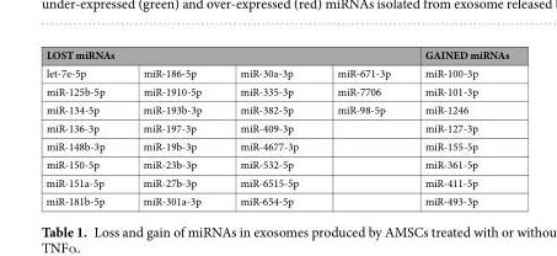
<table><thead><tr><td colspan="4">LOST miRNAs</td><td rowspan="2">GAINED miRNAs miR-100-3p</td></tr><tr><td>let-7e-5p</td><td>miR-186-5p</td><td>miR-30a-3p</td><td>miR-671-3p</td></tr></thead><tbody><tr><td>miR-125b-5p</td><td>miR-1910-5p</td><td>miR-335-3p</td><td>miR-7706</td><td>miR-101-3p</td></tr><tr><td>miR-134-5p</td><td>miR-193b-3p</td><td>miR-382-5p</td><td>miR-98-5p</td><td>miR-1246</td></tr><tr><td>miR-136-3p</td><td>miR-197-3p</td><td>miR-409-3p</td><td></td><td>miR-127-3p</td></tr><tr><td>miR-148b-3p</td><td>miR-19b-3p</td><td>miR-4677-3p</td><td></td><td>miR-155-5p</td></tr><tr><td>miR-150-5p</td><td>miR-23b-3p</td><td>miR-532-5p</td><td></td><td>miR-361-5p</td></tr><tr><td>miR-151a-5p</td><td>miR-27b-3p</td><td>miR-6515-5p</td><td></td><td>miR-411-5p</td></tr><tr><td>miR-181b-5p</td><td>miR-301a-3p</td><td>miR-654-5p</td><td></td><td>miR-493-3p</td></tr></tbody></table>